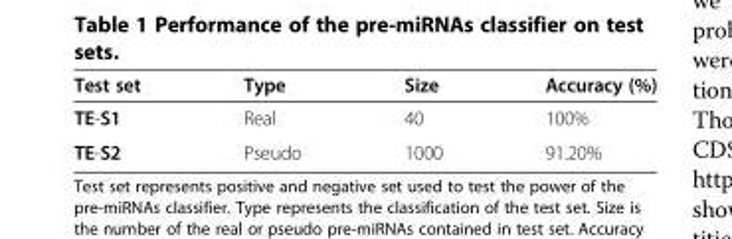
<table><thead><tr><td>Test set</td><td>Type</td><td>Size</td><td>Accuracy (%)</td></tr></thead><tbody><tr><td>TE-S1</td><td>Real</td><td>40</td><td>100%</td></tr><tr><td>TE-S2</td><td>Pseudo</td><td>1000</td><td>91.20%</td></tr></tbody></table>